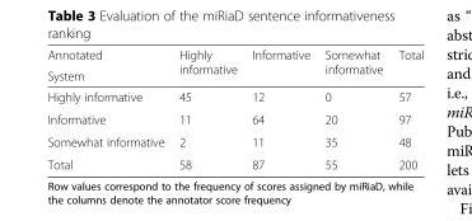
<table><thead><tr><td rowspan="2">Annotated System</td><td rowspan="2">Highly informative</td><td rowspan="2">Informative</td><td rowspan="2">Somewhat informative</td><td rowspan="2">Total</td></tr><tr></tr></thead><tbody><tr><td>Highly informative</td><td>45</td><td>12</td><td>0</td><td>57</td></tr><tr><td>Informative</td><td>11</td><td>64</td><td>20</td><td>97</td></tr><tr><td>Somewhat informative</td><td>2</td><td>11</td><td>35</td><td>48</td></tr><tr><td>Total</td><td>58</td><td>87</td><td>55</td><td>200</td></tr></tbody></table>